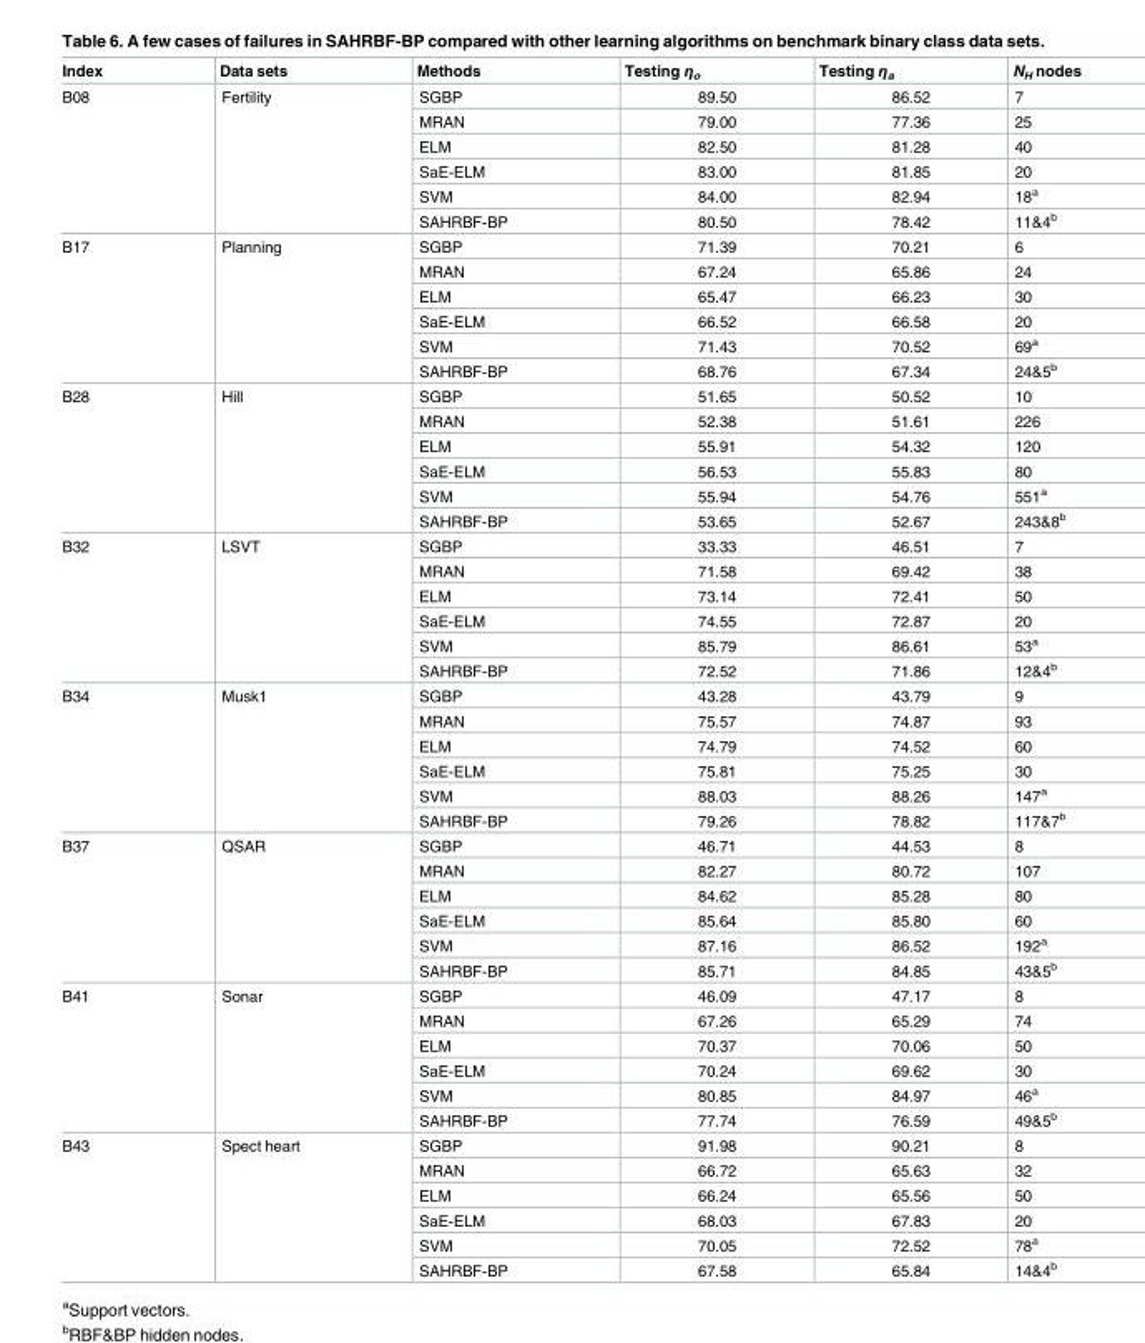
<table><thead><tr><td>Index</td><td>Data sets</td><td>Methods</td><td>Testing η<sub>o</sub></td><td>Testing η<sub>a</sub></td><td>N<sub>H</sub> nodes</td></tr></thead><tbody><tr><td rowspan="6">B08</td><td rowspan="6">Fertility</td><td>SGBP</td><td>89.50</td><td>86.52</td><td>7</td></tr><tr><td>MRAN</td><td>79.00</td><td>77.36</td><td>25</td></tr><tr><td>ELM</td><td>82.50</td><td>81.28</td><td>40</td></tr><tr><td>SaE-ELM</td><td>83.00</td><td>81.85</td><td>20</td></tr><tr><td>SVM</td><td>84.00</td><td>82.94</td><td>18<sup>a</sup></td></tr><tr><td>SAHRBF-BP</td><td>80.50</td><td>78.42</td><td>11&amp;4<sup>b</sup></td></tr><tr><td rowspan="6">B17</td><td rowspan="6">Planning</td><td>SGBP</td><td>71.39</td><td>70.21</td><td>6</td></tr><tr><td>MRAN</td><td>67.24</td><td>65.86</td><td>24</td></tr><tr><td>ELM</td><td>65.47</td><td>66.23</td><td>30</td></tr><tr><td>SaE-ELM</td><td>66.52</td><td>66.58</td><td>20</td></tr><tr><td>SVM</td><td>71.43</td><td>70.52</td><td>69<sup>a</sup></td></tr><tr><td>SAHRBF-BP</td><td>68.76</td><td>67.34</td><td>24&amp;5<sup>b</sup></td></tr><tr><td rowspan="6">B28</td><td rowspan="6">Hill</td><td>SGBP</td><td>51.65</td><td>50.52</td><td>10</td></tr><tr><td>MRAN</td><td>52.38</td><td>51.61</td><td>226</td></tr><tr><td>ELM</td><td>55.91</td><td>54.32</td><td>120</td></tr><tr><td>SaE-ELM</td><td>56.53</td><td>55.83</td><td>80</td></tr><tr><td>SVM</td><td>55.94</td><td>54.76</td><td>551<sup>a</sup></td></tr><tr><td>SAHRBF-BP</td><td>53.65</td><td>52.67</td><td>243&amp;8<sup>b</sup></td></tr><tr><td rowspan="6">B32</td><td rowspan="6">LSVT</td><td>SGBP</td><td>33.33</td><td>46.51</td><td>7</td></tr><tr><td>MRAN</td><td>71.58</td><td>69.42</td><td>38</td></tr><tr><td>ELM</td><td>73.14</td><td>72.41</td><td>50</td></tr><tr><td>SaE-ELM</td><td>74.55</td><td>72.87</td><td>20</td></tr><tr><td>SVM</td><td>85.79</td><td>86.61</td><td>53<sup>a</sup></td></tr><tr><td>SAHRBF-BP</td><td>72.52</td><td>71.86</td><td>12&amp;4<sup>b</sup></td></tr><tr><td rowspan="6">B34</td><td rowspan="6">Musk1</td><td>SGBP</td><td>43.28</td><td>43.79</td><td>9</td></tr><tr><td>MRAN</td><td>75.57</td><td>74.87</td><td>93</td></tr><tr><td>ELM</td><td>74.79</td><td>74.52</td><td>60</td></tr><tr><td>SaE-ELM</td><td>75.81</td><td>75.25</td><td>30</td></tr><tr><td>SVM</td><td>88.03</td><td>88.26</td><td>147<sup>a</sup></td></tr><tr><td>SAHRBF-BP</td><td>79.26</td><td>78.82</td><td>117&amp;7<sup>b</sup></td></tr><tr><td rowspan="6">B37</td><td rowspan="6">QSAR</td><td>SGBP</td><td>46.71</td><td>44.53</td><td>8</td></tr><tr><td>MRAN</td><td>82.27</td><td>80.72</td><td>107</td></tr><tr><td>ELM</td><td>84.62</td><td>85.28</td><td>80</td></tr><tr><td>SaE-ELM</td><td>85.64</td><td>85.80</td><td>60</td></tr><tr><td>SVM</td><td>87.16</td><td>86.52</td><td>192<sup>a</sup></td></tr><tr><td>SAHRBF-BP</td><td>85.71</td><td>84.85</td><td>43&amp;5<sup>b</sup></td></tr><tr><td rowspan="6">B41</td><td rowspan="6">Sonar</td><td>SGBP</td><td>46.09</td><td>47.17</td><td>8</td></tr><tr><td>MRAN</td><td>67.26</td><td>65.29</td><td>74</td></tr><tr><td>ELM</td><td>70.37</td><td>70.06</td><td>50</td></tr><tr><td>SaE-ELM</td><td>70.24</td><td>69.62</td><td>30</td></tr><tr><td>SVM</td><td>80.85</td><td>84.97</td><td>46<sup>a</sup></td></tr><tr><td>SAHRBF-BP</td><td>77.74</td><td>76.59</td><td>49&amp;5<sup>b</sup></td></tr><tr><td rowspan="6">B43</td><td rowspan="6">Spect heart</td><td>SGBP</td><td>91.98</td><td>90.21</td><td>8</td></tr><tr><td>MRAN</td><td>66.72</td><td>65.63</td><td>32</td></tr><tr><td>ELM</td><td>66.24</td><td>65.56</td><td>50</td></tr><tr><td>SaE-ELM</td><td>68.03</td><td>67.83</td><td>20</td></tr><tr><td>SVM</td><td>70.05</td><td>72.52</td><td>78<sup>a</sup></td></tr><tr><td>SAHRBF-BP</td><td>67.58</td><td>65.84</td><td>14&amp;4<sup>b</sup></td></tr></tbody></table>